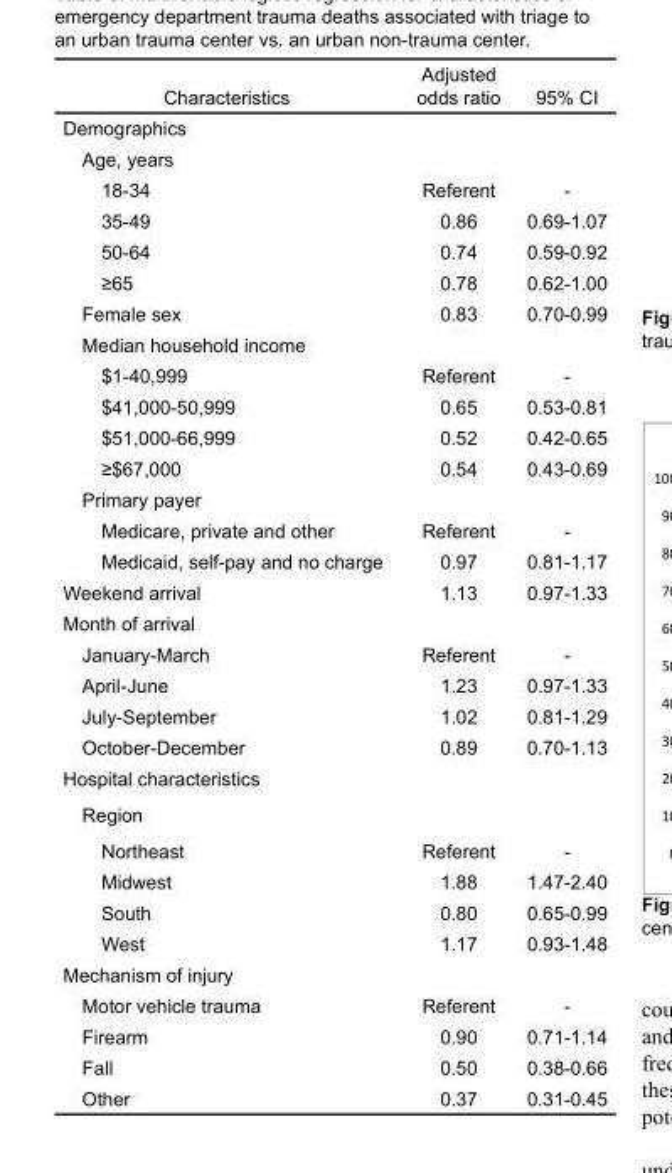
<table><thead><tr><td>Characteristics</td><td>Adjusted odds ratio</td><td>95% CI</td></tr></thead><tbody><tr><td colspan="3">Demographics</td></tr><tr><td colspan="3">Age, years</td></tr><tr><td>18-34</td><td>Referent</td><td>-</td></tr><tr><td>35-49</td><td>0.86</td><td>0.69-1.07</td></tr><tr><td>50-64</td><td>0.74</td><td>0.59-0.92</td></tr><tr><td>≥65</td><td>0.78</td><td>0.62-1.00</td></tr><tr><td>Female sex</td><td>0.83</td><td>0.70-0.99</td></tr><tr><td colspan="3">Median household income</td></tr><tr><td>$1-40,999</td><td>Referent</td><td>-</td></tr><tr><td>$41,000-50,999</td><td>0.65</td><td>0.53-0.81</td></tr><tr><td>$51,000-66,999</td><td>0.52</td><td>0.42-0.65</td></tr><tr><td>≥$67,000</td><td>0.54</td><td>0.43-0.69</td></tr><tr><td colspan="3">Primary payer</td></tr><tr><td>Medicare, private and other</td><td>Referent</td><td>-</td></tr><tr><td>Medicaid, self-pay and no charge</td><td>0.97</td><td>0.81-1.17</td></tr><tr><td>Weekend arrival</td><td>1.13</td><td>0.97-1.33</td></tr><tr><td colspan="3">Month of arrival</td></tr><tr><td>January-March</td><td>Referent</td><td>-</td></tr><tr><td>April-June</td><td>1.23</td><td>0.97-1.33</td></tr><tr><td>July-September</td><td>1.02</td><td>0.81-1.29</td></tr><tr><td>October-December</td><td>0.89</td><td>0.70-1.13</td></tr><tr><td colspan="3">Hospital characteristics</td></tr><tr><td colspan="3">Region</td></tr><tr><td>Northeast</td><td>Referent</td><td>-</td></tr><tr><td>Midwest</td><td>1.88</td><td>1.47-2.40</td></tr><tr><td>South</td><td>0.80</td><td>0.65-0.99</td></tr><tr><td>West</td><td>1.17</td><td>0.93-1.48</td></tr><tr><td colspan="3">Mechanism of injury</td></tr><tr><td>Motor vehicle trauma</td><td>Referent</td><td>-</td></tr><tr><td>Firearm</td><td>0.90</td><td>0.71-1.14</td></tr><tr><td>Fall</td><td>0.50</td><td>0.38-0.66</td></tr><tr><td>Other</td><td>0.37</td><td>0.31-0.45</td></tr></tbody></table>